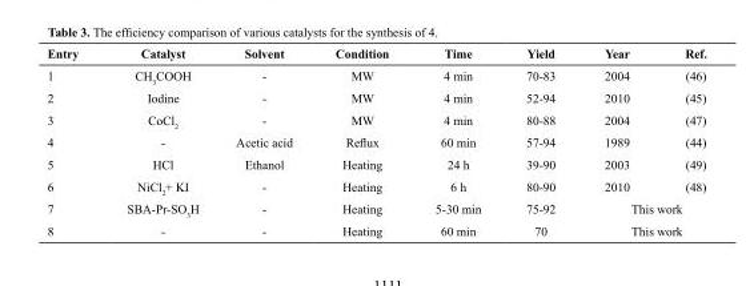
<table><thead><tr><td>Entry</td><td>Catalyst</td><td>Solvent</td><td>Condition</td><td>Time</td><td>Yield</td><td>Year</td><td>Ref.</td></tr></thead><tbody><tr><td>1</td><td>CH<sub>3</sub>COOH</td><td>-</td><td>MW</td><td>4 min</td><td>70-83</td><td>2004</td><td>(46)</td></tr><tr><td>2</td><td>Iodine</td><td>-</td><td>MW</td><td>4 min</td><td>52-94</td><td>2010</td><td>(45)</td></tr><tr><td>3</td><td>CoCl<sub>2</sub></td><td>-</td><td>MW</td><td>4 min</td><td>80-88</td><td>2004</td><td>(47)</td></tr><tr><td>4</td><td>-</td><td>Acetic acid</td><td>Reflux</td><td>60 min</td><td>57-94</td><td>1989</td><td>(44)</td></tr><tr><td>5</td><td>HCl</td><td>Ethanol</td><td>Heating</td><td>24 h</td><td>39-90</td><td>2003</td><td>(49)</td></tr><tr><td>6</td><td>NiCl<sub>2</sub>+ KI</td><td>-</td><td>Heating</td><td>6 h</td><td>80-90</td><td>2010</td><td>(48)</td></tr><tr><td>7</td><td>SBA-Pr-SO<sub>3</sub>H</td><td>-</td><td>Heating</td><td>5-30 min</td><td>75-92</td><td colspan="2">This work</td></tr><tr><td>8</td><td>-</td><td>-</td><td>Heating</td><td>60 min</td><td>70</td><td colspan="2">This work</td></tr></tbody></table>